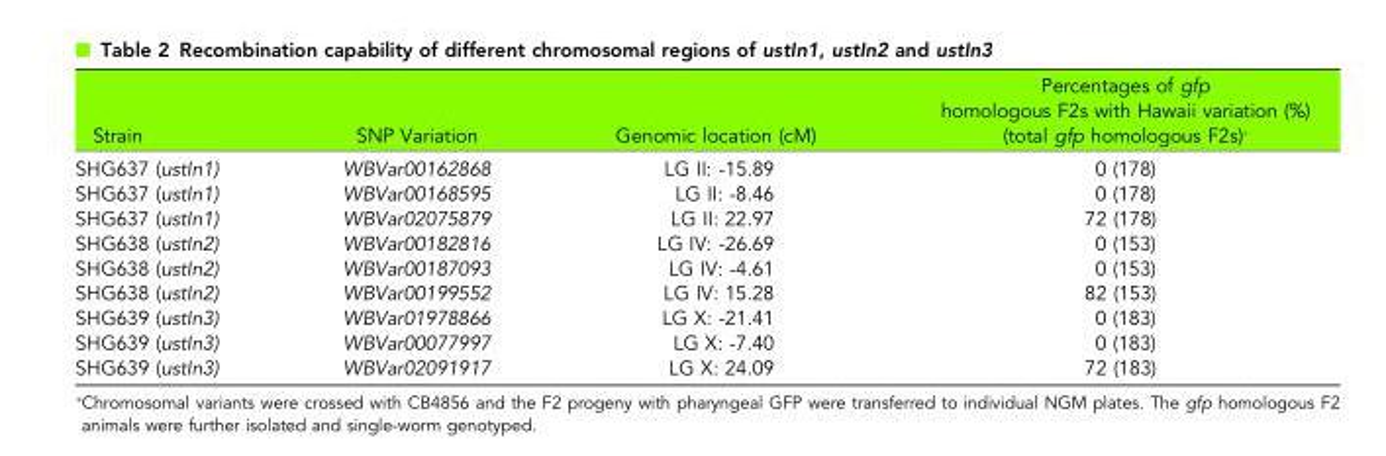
<table><thead><tr><td>Strain</td><td>SNP Variation</td><td>Genomic location (cM)</td><td>Percentages of gfp homologous F2s with Hawaii variation (%) (total gfp homologous F2s)*</td></tr></thead><tbody><tr><td>SHG637 (ustIn1)</td><td>WBVar00162868</td><td>LG II: -15.89</td><td>0 (178)</td></tr><tr><td>SHG637 (ustIn1)</td><td>WBVar00168595</td><td>LG II: -8.46</td><td>0 (178)</td></tr><tr><td>SHG637 (ustIn1)</td><td>WBVar02075879</td><td>LG II: 22.97</td><td>72 (178)</td></tr><tr><td>SHG638 (ustIn2)</td><td>WBVar00182816</td><td>LG IV: -26.69</td><td>0 (153)</td></tr><tr><td>SHG638 (ustIn2)</td><td>WBVar00187093</td><td>LG IV: -4.61</td><td>0 (153)</td></tr><tr><td>SHG638 (ustIn2)</td><td>WBVar00199552</td><td>LG IV: 15.28</td><td>82 (153)</td></tr><tr><td>SHG639 (ustIn3)</td><td>WBVar01978866</td><td>LG X: -21.41</td><td>0 (183)</td></tr><tr><td>SHG639 (ustIn3)</td><td>WBVar00077997</td><td>LG X: -7.40</td><td>0 (183)</td></tr><tr><td>SHG639 (ustIn3)</td><td>WBVar02091917</td><td>LG X: 24.09</td><td>72 (183)</td></tr></tbody></table>